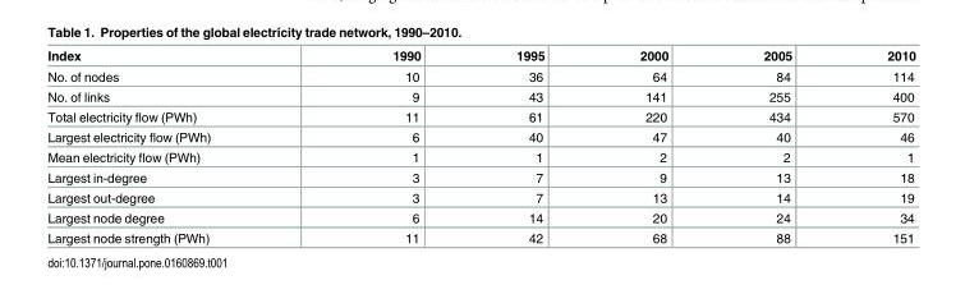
<table><thead><tr><td>Index</td><td>1990</td><td>1995</td><td>2000</td><td>2005</td><td>2010</td></tr></thead><tbody><tr><td>No. of nodes</td><td>10</td><td>36</td><td>64</td><td>84</td><td>114</td></tr><tr><td>No. of links</td><td>9</td><td>43</td><td>141</td><td>255</td><td>400</td></tr><tr><td>Total electricity flow (PWh)</td><td>11</td><td>61</td><td>220</td><td>434</td><td>570</td></tr><tr><td>Largest electricity flow (PWh)</td><td>6</td><td>40</td><td>47</td><td>40</td><td>46</td></tr><tr><td>Mean electricity flow (PWh)</td><td>1</td><td>1</td><td>2</td><td>2</td><td>1</td></tr><tr><td>Largest in-degree</td><td>3</td><td>7</td><td>9</td><td>13</td><td>18</td></tr><tr><td>Largest out-degree</td><td>3</td><td>7</td><td>13</td><td>14</td><td>19</td></tr><tr><td>Largest node degree</td><td>6</td><td>14</td><td>20</td><td>24</td><td>34</td></tr><tr><td>Largest node strength (PWh)</td><td>11</td><td>42</td><td>68</td><td>88</td><td>151</td></tr></tbody></table>